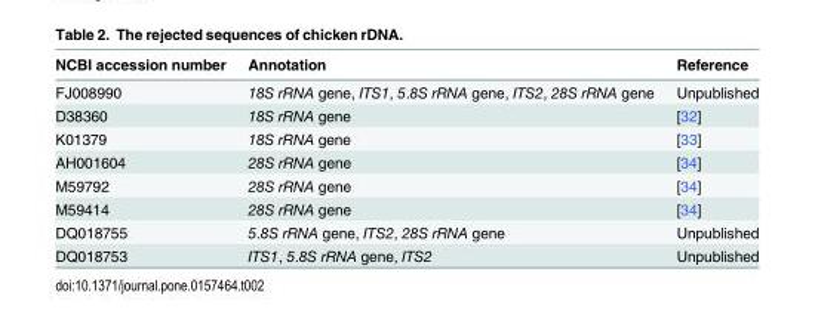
<table><thead><tr><td>NCBI accession number</td><td>Annotation</td><td>Reference</td></tr></thead><tbody><tr><td>FJ008990</td><td>18S rRNA gene, ITS1, 5.8S rRNA gene, ITS2, 28S rRNA gene</td><td>Unpublished</td></tr><tr><td>D38360</td><td>18S rRNA gene</td><td>[32]</td></tr><tr><td>K01379</td><td>18S rRNA gene</td><td>[33]</td></tr><tr><td>AH001604</td><td>28S rRNA gene</td><td>[34]</td></tr><tr><td>M59792</td><td>28S rRNA gene</td><td>[34]</td></tr><tr><td>M59414</td><td>28S rRNA gene</td><td>[34]</td></tr><tr><td>DQ018755</td><td>5.8S rRNA gene, ITS2, 28S rRNA gene</td><td>Unpublished</td></tr><tr><td>DQ018753</td><td>ITS1, 5.8S rRNA gene, ITS2</td><td>Unpublished</td></tr></tbody></table>